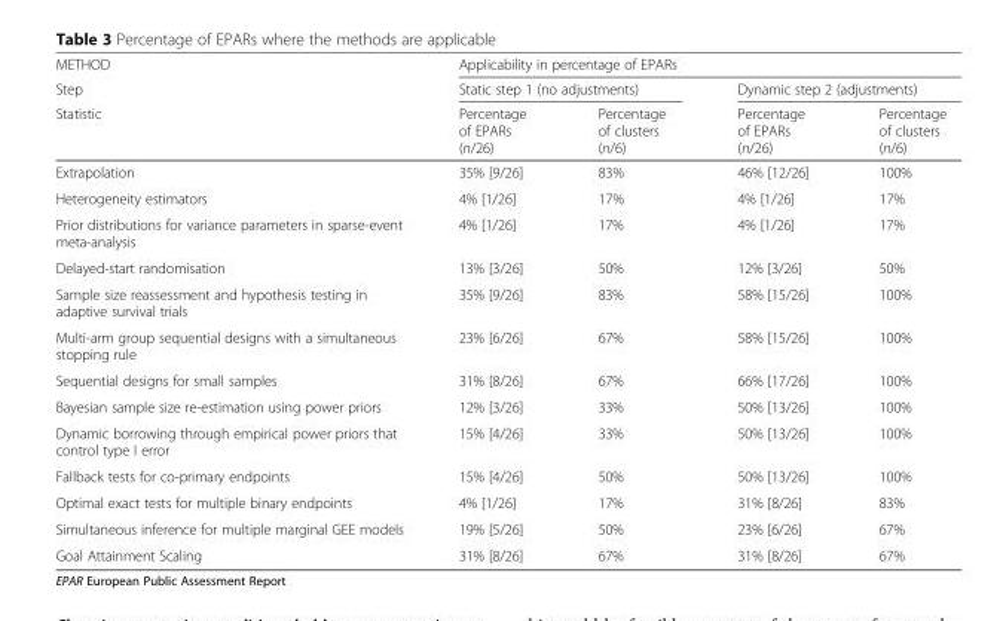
<table><thead><tr><td rowspan="3">METHOD Step Statistic</td><td colspan="4">Applicability in percentage of EPARs</td></tr><tr><td colspan="2">Static step 1 (no adjustments)</td><td colspan="2">Dynamic step 2 (adjustments)</td></tr><tr><td>Percentage of EPARs (n/26)</td><td>Percentage of clusters (n/6)</td><td>Percentage of EPARs (n/26)</td><td>Percentage of clusters (n/6)</td></tr></thead><tbody><tr><td>Extrapolation</td><td>35% [9/26]</td><td>83%</td><td>46% [12/26]</td><td>100%</td></tr><tr><td>Heterogeneity estimators</td><td>4% [1/26]</td><td>17%</td><td>4% [1/26]</td><td>17%</td></tr><tr><td>Prior distributions for variance parameters in sparse-event meta-analysis</td><td>4% [1/26]</td><td>17%</td><td>4% [1/26]</td><td>17%</td></tr><tr><td>Delayed-start randomisation</td><td>13% [3/26]</td><td>50%</td><td>12% [3/26]</td><td>50%</td></tr><tr><td>Sample size reassessment and hypothesis testing in adaptive survival trials</td><td>35% [9/26]</td><td>83%</td><td>58% [15/26]</td><td>100%</td></tr><tr><td>Multi-arm group sequential designs with a simultaneous stopping rule</td><td>23% [6/26]</td><td>67%</td><td>58% [15/26]</td><td>100%</td></tr><tr><td>Sequential designs for small samples</td><td>31% [8/26]</td><td>67%</td><td>66% [17/26]</td><td>100%</td></tr><tr><td>Bayesian sample size re-estimation using power priors</td><td>12% [3/26]</td><td>33%</td><td>50% [13/26]</td><td>100%</td></tr><tr><td>Dynamic borrowing through empirical power priors that control type I error</td><td>15% [4/26]</td><td>33%</td><td>50% [13/26]</td><td>100%</td></tr><tr><td>Fallback tests for co-primary endpoints</td><td>15% [4/26]</td><td>50%</td><td>50% [13/26]</td><td>100%</td></tr><tr><td>Optimal exact tests for multiple binary endpoints</td><td>4% [1/26]</td><td>17%</td><td>31% [8/26]</td><td>83%</td></tr><tr><td>Simultaneous inference for multiple marginal GEE models</td><td>19% [5/26]</td><td>50%</td><td>23% [6/26]</td><td>67%</td></tr><tr><td>Goal Attainment Scaling</td><td>31% [8/26]</td><td>67%</td><td>31% [8/26]</td><td>67%</td></tr></tbody></table>